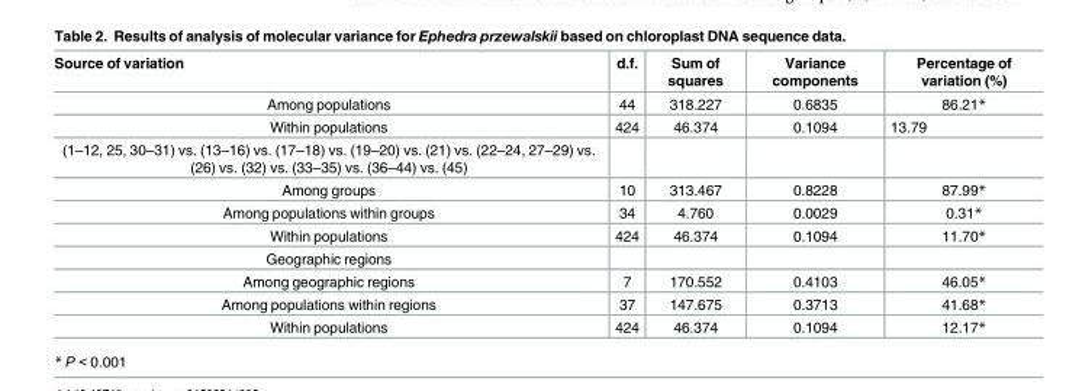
<table><thead><tr><td>Source of variation</td><td>d.f.</td><td>Sum of squares</td><td>Variance components</td><td>Percentage of variation (%)</td></tr></thead><tbody><tr><td>Among populations</td><td>44</td><td>318.227</td><td>0.6835</td><td>86.21*</td></tr><tr><td>Within populations</td><td>424</td><td>46.374</td><td>0.1094</td><td>13.79</td></tr><tr><td colspan="5">(1–12, 25, 30–31) vs. (13–16) vs. (17–18) vs. (19–20) vs. (21) vs. (22–24, 27–29) vs. (26) vs. (32) vs. (33–35) vs. (36–44) vs. (45)</td></tr><tr><td>Among groups</td><td>10</td><td>313.467</td><td>0.8228</td><td>87.99*</td></tr><tr><td>Among populations within groups</td><td>34</td><td>4.760</td><td>0.0029</td><td>0.31*</td></tr><tr><td>Within populations</td><td>424</td><td>46.374</td><td>0.1094</td><td>11.70*</td></tr><tr><td colspan="5">Geographic regions</td></tr><tr><td>Among geographic regions</td><td>7</td><td>170.552</td><td>0.4103</td><td>46.05*</td></tr><tr><td>Among populations within regions</td><td>37</td><td>147.675</td><td>0.3713</td><td>41.68*</td></tr><tr><td>Within populations</td><td>424</td><td>46.374</td><td>0.1094</td><td>12.17*</td></tr></tbody></table>